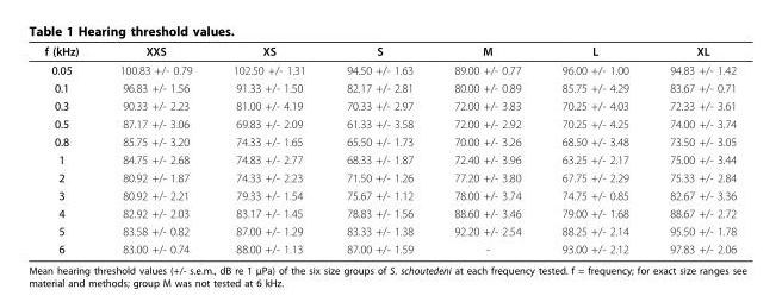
<table><thead><tr><td>f (kHz)</td><td>XXS</td><td>XS</td><td>S</td><td>M</td><td>L</td><td>XL</td></tr></thead><tbody><tr><td>0.05</td><td>100.83 +/- 0.79</td><td>102.50 +/- 1.31</td><td>94.50 +/- 1.63</td><td>89.00 +/- 0.77</td><td>96.00 +/- 1.00</td><td>94.83 +/- 1.42</td></tr><tr><td>0.1</td><td>96.83 +/- 1.56</td><td>91.33 +/- 1.50</td><td>82.17 +/- 2.81</td><td>80.00 +/- 0.89</td><td>85.75 +/- 4.29</td><td>83.67 +/- 0.71</td></tr><tr><td>0.3</td><td>90.33 +/- 2.23</td><td>81.00 +/- 4.19</td><td>70.33 +/- 2.97</td><td>72.00 +/- 3.83</td><td>70.25 +/- 4.03</td><td>72.33 +/- 3.61</td></tr><tr><td>0.5</td><td>87.17 +/- 3.06</td><td>69.83 +/- 2.09</td><td>61.33 +/- 3.58</td><td>72.00 +/- 2.92</td><td>70.25 +/- 4.25</td><td>74.00 +/- 3.74</td></tr><tr><td>0.8</td><td>85.75 +/- 3.20</td><td>74.33 +/- 1.65</td><td>65.50 +/- 1.73</td><td>70.00 +/- 3.26</td><td>68.50 +/- 3.48</td><td>73.50 +/- 3.05</td></tr><tr><td>1</td><td>84.75 +/- 2.68</td><td>74.83 +/- 2.77</td><td>68.33 +/- 1.87</td><td>72.40 +/- 3.96</td><td>63.25 +/- 2.17</td><td>75.00 +/- 3.44</td></tr><tr><td>2</td><td>80.92 +/- 1.87</td><td>74.33 +/- 2.23</td><td>71.50 +/- 1.26</td><td>77.20 +/- 3.80</td><td>67.75 +/- 2.29</td><td>75.33 +/- 2.84</td></tr><tr><td>3</td><td>80.92 +/- 2.21</td><td>79.33 +/- 1.54</td><td>75.67 +/- 1.12</td><td>78.00 +/- 3.74</td><td>74.75 +/- 0.85</td><td>82.67 +/- 3.36</td></tr><tr><td>4</td><td>82.92 +/- 2.03</td><td>83.17 +/- 1.45</td><td>78.83 +/- 1.56</td><td>88.60 +/- 3.46</td><td>79.00 +/- 1.68</td><td>88.67 +/- 2.72</td></tr><tr><td>5</td><td>83.58 +/- 0.82</td><td>87.00 +/- 1.29</td><td>83.33 +/- 1.38</td><td>92.20 +/- 2.54</td><td>88.25 +/- 2.14</td><td>95.50 +/- 1.78</td></tr><tr><td>6</td><td>83.00 +/- 0.74</td><td>88.00 +/- 1.13</td><td>87.00 +/- 1.59</td><td>-</td><td>93.00 +/- 2.12</td><td>97.83 +/- 2.06</td></tr></tbody></table>